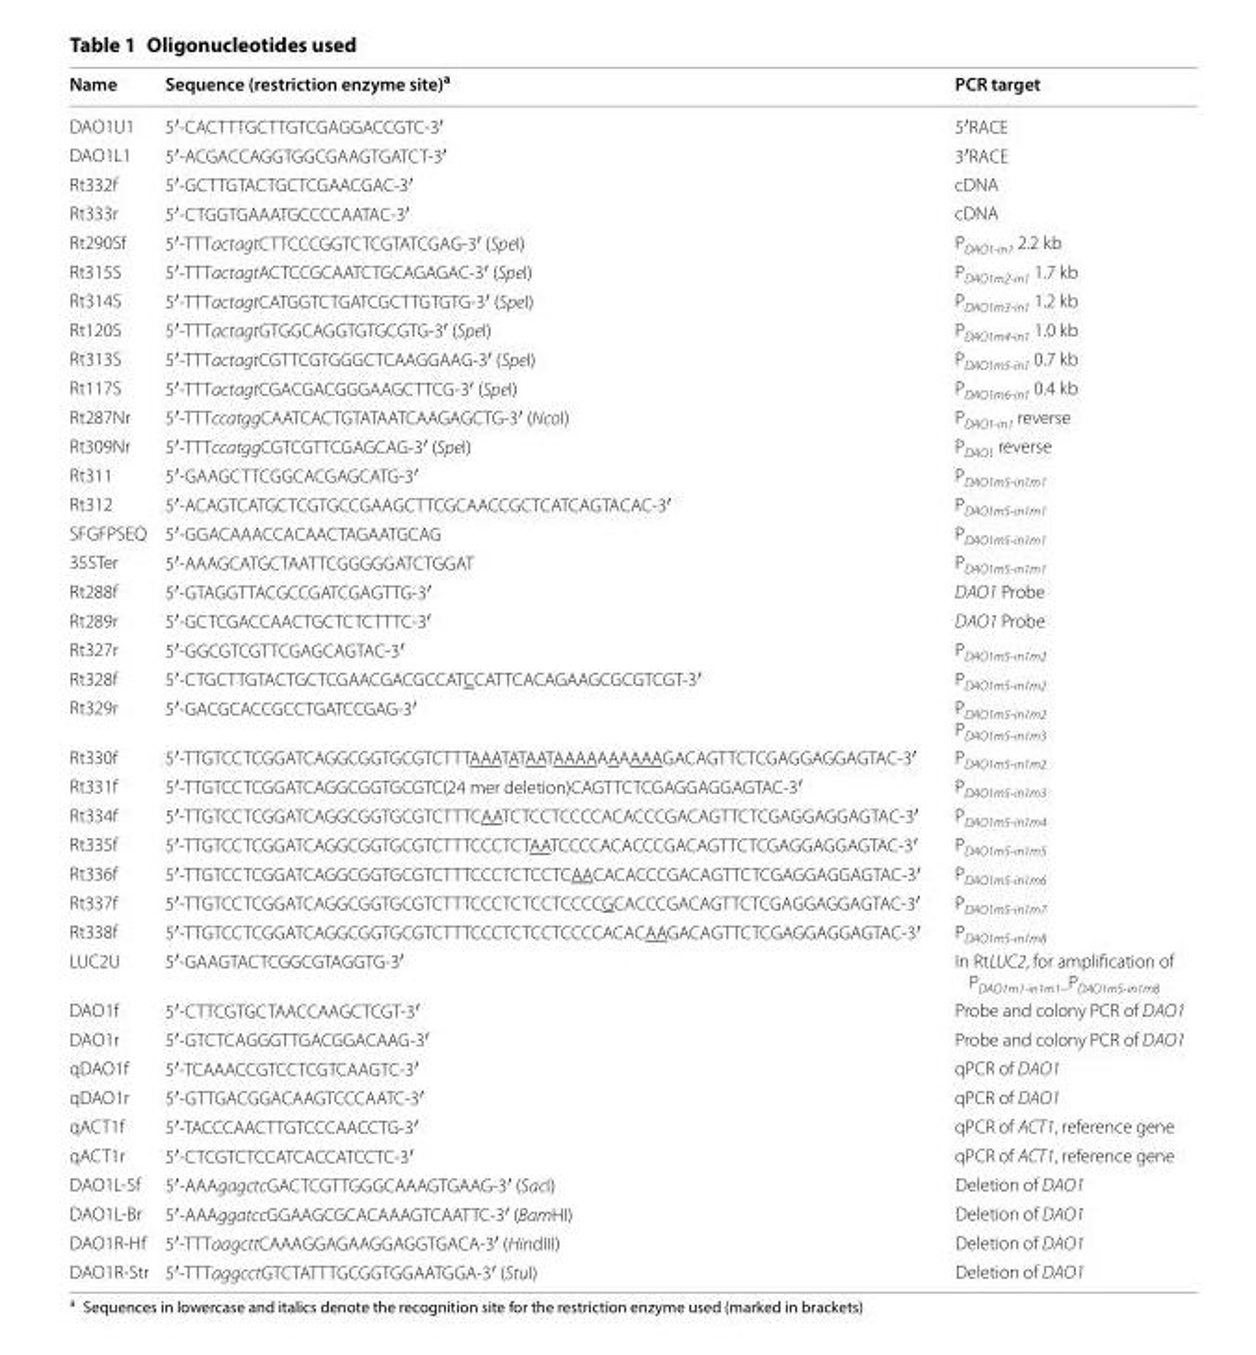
<table><thead><tr><td>Name</td><td>Sequence (restriction enzyme site)<sup>a</sup></td><td>PCR target</td></tr></thead><tbody><tr><td>DAO1U1</td><td>5′-CACTTTGCTTGTCGAGGACCGTC-3′</td><td>5′RACE</td></tr><tr><td>DAO1L1</td><td>5′-ACGACCAGGTGGCGAAGTGATCT-3′</td><td>3′RACE</td></tr><tr><td>Rt332f</td><td>5′-GCTTGTACTGCTCGAACGAC-3′</td><td>cDNA</td></tr><tr><td>Rt333r</td><td>5′-CTGGTGAAATGCCCCAATAC-3′</td><td>cDNA</td></tr><tr><td>Rt290Sf</td><td>5′-TTTactagtCTTCCCGGTCTCGTATCGAG-3′ (SpeI)</td><td>P<sub>DAO1-in1</sub> 2.2 kb</td></tr><tr><td>Rt315S</td><td>5′-TTTactagtACTCCGCAATCTGCAGAGAC-3′ (SpeI)</td><td>P<sub>DAO1m2-in1</sub> 1.7 kb</td></tr><tr><td>Rt314S</td><td>5′-TTTactagtCATGGTCTGATCGCTTGTGTG-3′ (SpeI)</td><td>P<sub>DAO1m3-in1</sub> 1.2 kb</td></tr><tr><td>Rt120S</td><td>5′-TTTactagtGTGGCAGGTGTGCGTG-3′ (SpeI)</td><td>P<sub>DAO1m4-in1</sub> 1.0 kb</td></tr><tr><td>Rt313S</td><td>5′-TTTactagtCGTTCGTGGGCTCAAGGAAG-3′ (SpeI)</td><td>P<sub>DAO1m5-in1</sub> 0.7 kb</td></tr><tr><td>Rt117S</td><td>5′-TTTactagtCGACGACGGGAAGCTTCG-3′ (SpeI)</td><td>P<sub>DAO1m6-in1</sub> 0.4 kb</td></tr><tr><td>Rt287Nr</td><td>5′-TTTccatggCAATCACTGTATAATCAAGAGCTG-3′ (NcoI)</td><td>P<sub>DAO1-in1</sub> reverse</td></tr><tr><td>Rt309Nr</td><td>5′-TTTccatggCGTCGTTCGAGCAG-3′ (SpeI)</td><td>P<sub>DAO1</sub> reverse</td></tr><tr><td>Rt311</td><td>5′-GAAGCTTCGGCACGAGCATG-3′</td><td>P<sub>DAO1m5-in1m1</sub></td></tr><tr><td>Rt312</td><td>5′-ACAGTCATGCTCGTGCCGAAGCTTCGCAACCGCTCATCAGTACAC-3′</td><td>P<sub>DAO1m5-in1m1</sub></td></tr><tr><td>SFGFPSEQ</td><td>5′-GGACAAACCACAACTAGAATGCAG</td><td>P<sub>DAO1m5-in1m1</sub></td></tr><tr><td>35STer</td><td>5′-AAAGCATGCTAATTCGGGGGATCTGGAT</td><td>P<sub>DAO1m5-in1m1</sub></td></tr><tr><td>Rt288f</td><td>5′-GTAGGTTACGCCGATCGAGTTG-3′</td><td>DAO1 Probe</td></tr><tr><td>Rt289r</td><td>5′-GCTCGACCAACTGCTCTCTTTC-3′</td><td>DAO1 Probe</td></tr><tr><td>Rt327r</td><td>5′-GGCGTCGTTCGAGCAGTAC-3′</td><td>P<sub>DAO1m5-in1m2</sub></td></tr><tr><td>Rt328f</td><td>5′-CTGCTTGTACTGCTCGAACGACGCCATCCATTCACAGAAGCGCGTCGT-3′</td><td>P<sub>DAO1m5-in1m2</sub></td></tr><tr><td>Rt329r</td><td>5′-GACGCACCGCCTGATCCGAG-3′</td><td>P<sub>DAO1m5-in1m2</sub> P<sub>DAO1m5-in1m3</sub></td></tr><tr><td>Rt330f</td><td>5′-TTGTCCTCGGATCAGGCGGTGCGTCTTTAAATATAATAAAAAAAAAAGACAGTTCTCGAGGAGGAGTAC-3′</td><td>P<sub>DAO1m5-in1m2</sub></td></tr><tr><td>Rt331f</td><td>5′-TTGTCCTCGGATCAGGCGGTGCGTC(24 mer deletion)CAGTTCTCGAGGAGGAGTAC-3′</td><td>P<sub>DAO1m5-in1m3</sub></td></tr><tr><td>Rt334f</td><td>5′-TTGTCCTCGGATCAGGCGGTGCGTCTTTCAATCTCCTCCCCACACCCGACAGTTCTCGAGGAGGAGTAC-3′</td><td>P<sub>DAO1m5-in1m4</sub></td></tr><tr><td>Rt335f</td><td>5′-TTGTCCTCGGATCAGGCGGTGCGTCTTTCCCTCTAATCCCCACACCCGACAGTTCTCGAGGAGGAGTAC-3′</td><td>P<sub>DAO1m5-in1m5</sub></td></tr><tr><td>Rt336f</td><td>5′-TTGTCCTCGGATCAGGCGGTGCGTCTTTCCCTCTCCTCAACACACCCGACAGTTCTCGAGGAGGAGTAC-3′</td><td>P<sub>DAO1m5-in1m6</sub></td></tr><tr><td>Rt337f</td><td>5′-TTGTCCTCGGATCAGGCGGTGCGTCTTTCCCTCTCCTCCCCGCACCCGACAGTTCTCGAGGAGGAGTAC-3′</td><td>P<sub>DAO1m5-in1m7</sub></td></tr><tr><td>Rt338f</td><td>5′-TTGTCCTCGGATCAGGCGGTGCGTCTTTCCCTCTCCTCCCCACACAAGACAGTTCTCGAGGAGGAGTAC-3′</td><td>P<sub>DAO1m5-in1m8</sub></td></tr><tr><td>LUC2U</td><td>5′-GAAGTACTCGGCGTAGGTG-3′</td><td>In RtLUC2, for amplification of P<sub>DAO1m1-in1m1~</sub>P<sub>DAO1m5-in1m8</sub></td></tr><tr><td>DAO1f</td><td>5′-CTTCGTGCTAACCAAGCTCGT-3′</td><td>Probe and colony PCR of DAO1</td></tr><tr><td>DAO1r</td><td>5′-GTCTCAGGGTTGACGGACAAG-3′</td><td>Probe and colony PCR of DAO1</td></tr><tr><td>qDAO1f</td><td>5′-TCAAACCGTCCTCGTCAAGTC-3′</td><td>qPCR of DAO1</td></tr><tr><td>qDAO1r</td><td>5′-GTTGACGGACAAGTCCCAATC-3′</td><td>qPCR of DAO1</td></tr><tr><td>qACT1f</td><td>5′-TACCCAACTTGTCCCAACCTG-3′</td><td>qPCR of ACT1, reference gene</td></tr><tr><td>qACT1r</td><td>5′-CTCGTCTCCATCACCATCCTC-3′</td><td>qPCR of ACT1, reference gene</td></tr><tr><td>DAO1L-Sf</td><td>5′-AAAgagctcGACTCGTTGGGCAAAGTGAAG-3′ (SacI)</td><td>Deletion of DAO1</td></tr><tr><td>DAO1L-Br</td><td>5′-AAAggatccGGAAGCGCACAAAGTCAATTC-3′ (BamHI)</td><td>Deletion of DAO1</td></tr><tr><td>DAO1R-Hf</td><td>5′-TTTaagcttCAAAGGAGAAGGAGGTGACA-3′ (HindIII)</td><td>Deletion of DAO1</td></tr><tr><td>DAO1R-Str</td><td>5′-TTTaggcctGTCTATTTGCGGTGGAATGGA-3′ (StuI)</td><td>Deletion of DAO1</td></tr></tbody></table>